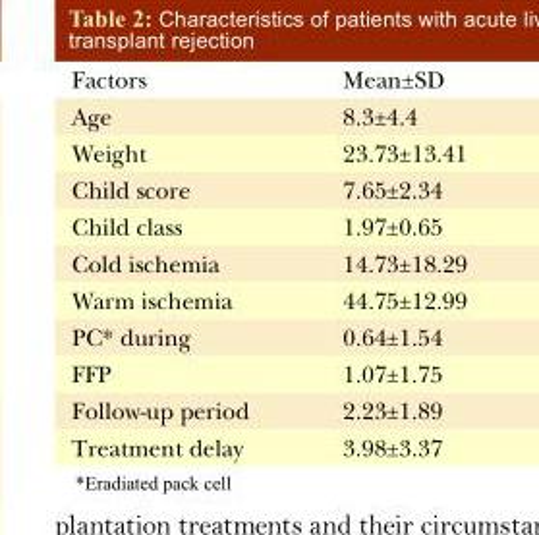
<table><thead><tr><td>Factors</td><td>Mean±SD</td></tr></thead><tbody><tr><td>Age</td><td>8.3±4.4</td></tr><tr><td>Weight</td><td>23.73±13.41</td></tr><tr><td>Child score</td><td>7.65±2.34</td></tr><tr><td>Child class</td><td>1.97±0.65</td></tr><tr><td>Cold ischemia</td><td>14.73±18.29</td></tr><tr><td>Warm ischemia</td><td>44.75±12.99</td></tr><tr><td>PC* during</td><td>0.64±1.54</td></tr><tr><td>FFP</td><td>1.07±1.75</td></tr><tr><td>Follow-up period</td><td>2.23±1.89</td></tr><tr><td>Treatment delay</td><td>3.98±3.37</td></tr></tbody></table>